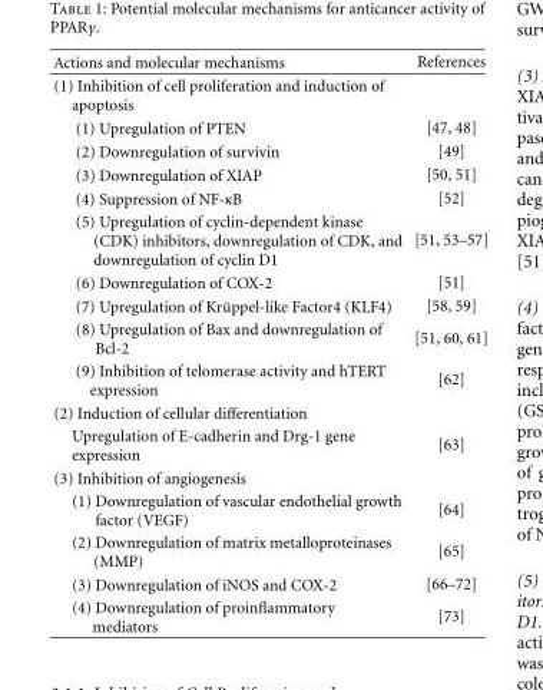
<table><thead><tr><td>Actions and molecular mechanisms</td><td>References</td></tr></thead><tbody><tr><td colspan="2">(1) Inhibition of cell proliferation and induction of apoptosis</td></tr><tr><td>(1) Upregulation of PTEN</td><td>[47, 48]</td></tr><tr><td>(2) Downregulation of survivin</td><td>[49]</td></tr><tr><td>(3) Downregulation of XIAP</td><td>[50, 51]</td></tr><tr><td>(4) Suppression of NF-κB</td><td>[52]</td></tr><tr><td>(5) Upregulation of cyclin-dependent kinase (CDK) inhibitors, downregulation of CDK, and downregulation of cyclin D1</td><td>[51, 53–57]</td></tr><tr><td>(6) Downregulation of COX-2</td><td>[51]</td></tr><tr><td>(7) Upregulation of Kr¨uppel-like Factor4 (KLF4)</td><td>[58, 59]</td></tr><tr><td>(8) Upregulation of Bax and downregulation of Bcl-2</td><td>[51, 60, 61]</td></tr><tr><td>(9) Inhibition of telomerase activity and hTERT expression</td><td>[62]</td></tr><tr><td colspan="2">(2) Induction of cellular differentiation</td></tr><tr><td>Upregulation of E-cadherin and Drg-1 gene expression</td><td>[63]</td></tr><tr><td colspan="2">(3) Inhibition of angiogenesis</td></tr><tr><td>(1) Downregulation of vascular endothelial growth factor (VEGF)</td><td>[64]</td></tr><tr><td>(2) Downregulation of matrix metalloproteinases (MMP)</td><td>[65]</td></tr><tr><td>(3) Downregulation of iNOS and COX-2</td><td>[66–72]</td></tr><tr><td>(4) Downregulation of proinflammatory mediators</td><td>[73]</td></tr></tbody></table>